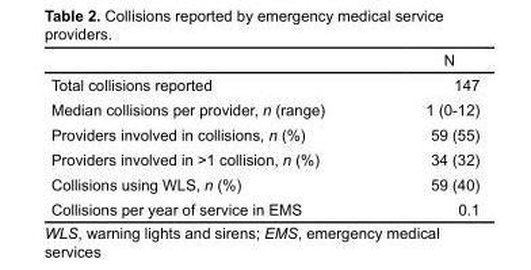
<table><thead><tr><td></td><td>N</td></tr></thead><tbody><tr><td>Total collisions reported</td><td>147</td></tr><tr><td>Median collisions per provider, n (range)</td><td>1 (0-12)</td></tr><tr><td>Providers involved in collisions, n (%)</td><td>59 (55)</td></tr><tr><td>Providers involved in &gt;1 collision, n (%)</td><td>34 (32)</td></tr><tr><td>Collisions using WLS, n (%)</td><td>59 (40)</td></tr><tr><td>Collisions per year of service in EMS</td><td>0.1</td></tr></tbody></table>